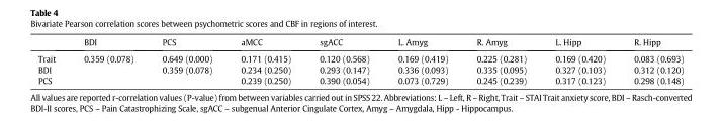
<table><thead><tr><td></td><td>BDI</td><td>PCS</td><td>aMCC</td><td>sgACC</td><td>L. Amyg</td><td>R. Amyg</td><td>L. Hipp</td><td>R. Hipp</td></tr></thead><tbody><tr><td>Trait</td><td>0.359 (0.078)</td><td>0.649 (0.000)</td><td>0.171 (0.415)</td><td>0.120 (0.568)</td><td>0.169 (0.419)</td><td>0.225 (0.281)</td><td>0.169 (0.420)</td><td>0.083 (0.693)</td></tr><tr><td>BDI</td><td></td><td>0.359 (0.078)</td><td>0.234 (0.250)</td><td>0.293 (0.147)</td><td>0.336 (0.093)</td><td>0.335 (0.095)</td><td>0.327 (0.103)</td><td>0.312 (0.120)</td></tr><tr><td>PCS</td><td></td><td></td><td>0.239 (0.250)</td><td>0.390 (0.054)</td><td>0.073 (0.729)</td><td>0.245 (0.239)</td><td>0.317 (0.123)</td><td>0.298 (0.148)</td></tr></tbody></table>